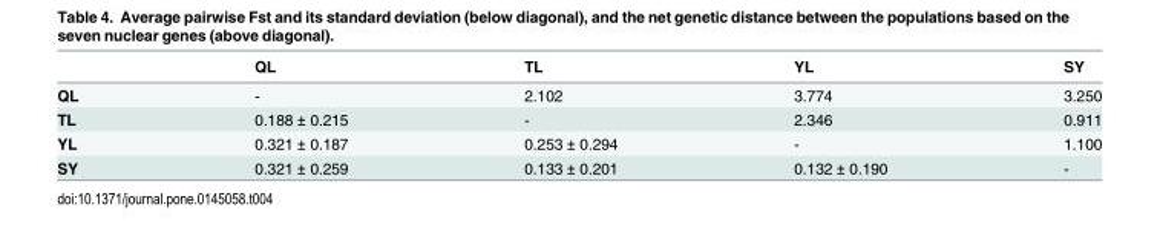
<table><thead><tr><td></td><td>QL</td><td>TL</td><td>YL</td><td>SY</td></tr></thead><tbody><tr><td>QL</td><td>-</td><td>2.102</td><td>3.774</td><td>3.250</td></tr><tr><td>TL</td><td>0.188 ± 0.215</td><td>-</td><td>2.346</td><td>0.911</td></tr><tr><td>YL</td><td>0.321 ± 0.187</td><td>0.253 ± 0.294</td><td>-</td><td>1.100</td></tr><tr><td>SY</td><td>0.321 ± 0.259</td><td>0.133 ± 0.201</td><td>0.132 ± 0.190</td><td>-</td></tr></tbody></table>